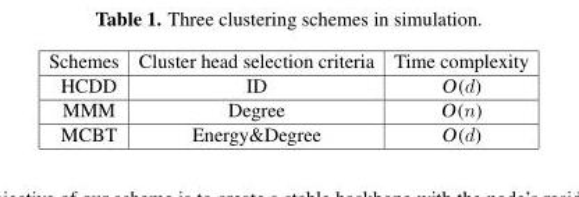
<table><thead><tr><td>Schemes</td><td>Cluster head selection criteria</td><td>Time complexity</td></tr></thead><tbody><tr><td>HCDD</td><td>ID</td><td>O(d)</td></tr><tr><td>MMM</td><td>Degree</td><td>O(n)</td></tr><tr><td>MCBT</td><td>Energy&amp;Degree</td><td>O(d)</td></tr></tbody></table>